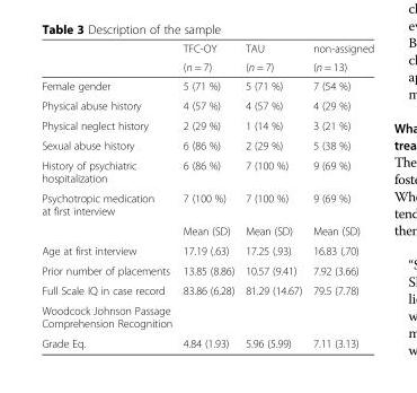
<table><thead><tr><td rowspan="2"></td><td rowspan="2">TFC-OY (n = 7)</td><td rowspan="2">TAU (n = 7)</td><td rowspan="2">non-assigned (n = 13)</td></tr><tr></tr></thead><tbody><tr><td>Female gender</td><td>5 (71 %)</td><td>5 (71 %)</td><td>7 (54 %)</td></tr><tr><td>Physical abuse history</td><td>4 (57 %)</td><td>4 (57 %)</td><td>4 (29 %)</td></tr><tr><td>Physical neglect history</td><td>2 (29 %)</td><td>1 (14 %)</td><td>3 (21 %)</td></tr><tr><td>Sexual abuse history</td><td>6 (86 %)</td><td>2 (29 %)</td><td>5 (38 %)</td></tr><tr><td>History of psychiatric hospitalization</td><td>6 (86 %)</td><td>7 (100 %)</td><td>9 (69 %)</td></tr><tr><td rowspan="2">Psychotropic medication at first interview</td><td>7 (100 %)</td><td>7 (100 %)</td><td>9 (69 %)</td></tr><tr><td>Mean (SD)</td><td>Mean (SD)</td><td>Mean (SD)</td></tr><tr><td>Age at first interview</td><td>17.19 (.63)</td><td>17.25 (.93)</td><td>16.83 (.70)</td></tr><tr><td>Prior number of placements</td><td>13.85 (8.86)</td><td>10.57 (9.41)</td><td>7.92 (3.66)</td></tr><tr><td>Full Scale IQ in case record</td><td>83.86 (6.28)</td><td>81.29 (14.67)</td><td>79.5 (7.78)</td></tr><tr><td colspan="4">Woodcock Johnson Passage Comprehension Recognition</td></tr><tr><td>Grade Eq.</td><td>4.84 (1.93)</td><td>5.96 (5.99)</td><td>7.11 (3.13)</td></tr></tbody></table>